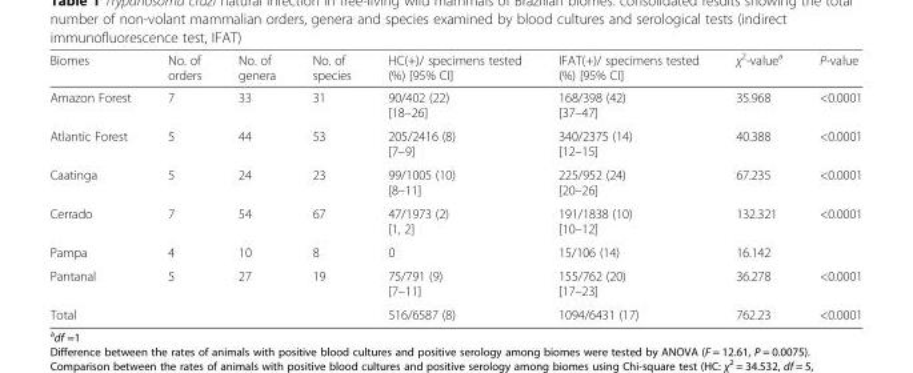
<table><thead><tr><td>Biomes</td><td>No. of orders</td><td>No. of genera</td><td>No. of species</td><td>HC(+)/ specimens tested (%) [95% CI]</td><td>IFAT(+)/ specimens tested (%) [95% CI]</td><td>χ<sup>2</sup>-value<sup>a</sup></td><td>P-value</td></tr></thead><tbody><tr><td>Amazon Forest</td><td>7</td><td>33</td><td>31</td><td>90/402 (22) [18–26]</td><td>168/398 (42) [37–47]</td><td>35.968</td><td>&lt;0.0001</td></tr><tr><td>Atlantic Forest</td><td>5</td><td>44</td><td>53</td><td>205/2416 (8) [7–9]</td><td>340/2375 (14) [12–15]</td><td>40.388</td><td>&lt;0.0001</td></tr><tr><td>Caatinga</td><td>5</td><td>24</td><td>23</td><td>99/1005 (10) [8–11]</td><td>225/952 (24) [20–26]</td><td>67.235</td><td>&lt;0.0001</td></tr><tr><td>Cerrado</td><td>7</td><td>54</td><td>67</td><td>47/1973 (2) [1, 2]</td><td>191/1838 (10) [10–12]</td><td>132.321</td><td>&lt;0.0001</td></tr><tr><td>Pampa</td><td>4</td><td>10</td><td>8</td><td>0</td><td>15/106 (14)</td><td>16.142</td><td></td></tr><tr><td>Pantanal</td><td>5</td><td>27</td><td>19</td><td>75/791 (9) [7–11]</td><td>155/762 (20) [17–23]</td><td>36.278</td><td>&lt;0.0001</td></tr><tr><td>Total</td><td></td><td></td><td></td><td>516/6587 (8)</td><td>1094/6431 (17)</td><td>762.23</td><td>&lt;0.0001</td></tr></tbody></table>